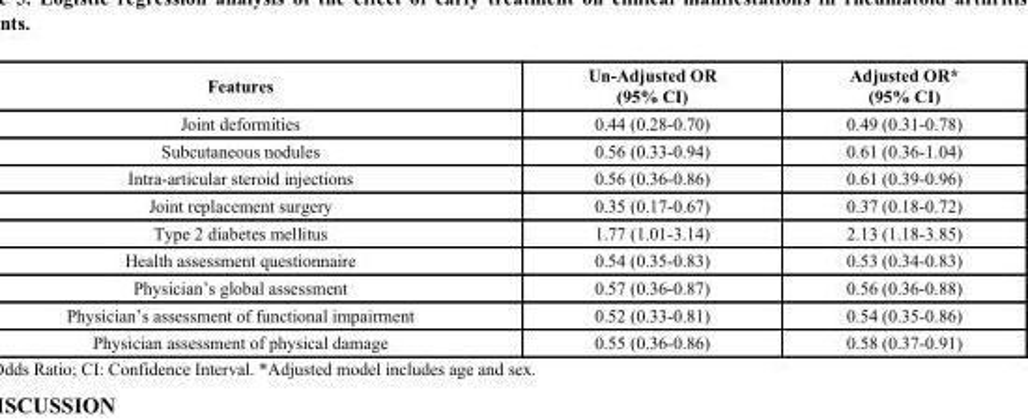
<table><thead><tr><td>Features</td><td>Un-Adjusted OR (95% CI)</td><td>Adjusted OR* (95% CI)</td></tr></thead><tbody><tr><td>Joint deformities</td><td>0.44 (0.28-0.70)</td><td>0.49 (0.31-0.78)</td></tr><tr><td>Subcutaneous nodules</td><td>0.56 (0.33-0.94)</td><td>0.61 (0.36-1.04)</td></tr><tr><td>Intra-articular steroid injections</td><td>0.56 (0.36-0.86)</td><td>0.61 (0.39-0.96)</td></tr><tr><td>Joint replacement surgery</td><td>0.35 (0.17-0.67)</td><td>0.37 (0.18-0.72)</td></tr><tr><td>Type 2 diabetes mellitus</td><td>1.77 (1.01-3.14)</td><td>2.13 (1.18-3.85)</td></tr><tr><td>Health assessment questionnaire</td><td>0.54 (0.35-0.83)</td><td>0.53 (0.34-0.83)</td></tr><tr><td>Physician’s global assessment</td><td>0.57 (0.36-0.87)</td><td>0.56 (0.36-0.88)</td></tr><tr><td>Physician’s assessment of functional impairment</td><td>0.52 (0.33-0.81)</td><td>0.54 (0.35-0.86)</td></tr><tr><td>Physician assessment of physical damage</td><td>0.55 (0.36-0.86)</td><td>0.58 (0.37-0.91)</td></tr></tbody></table>